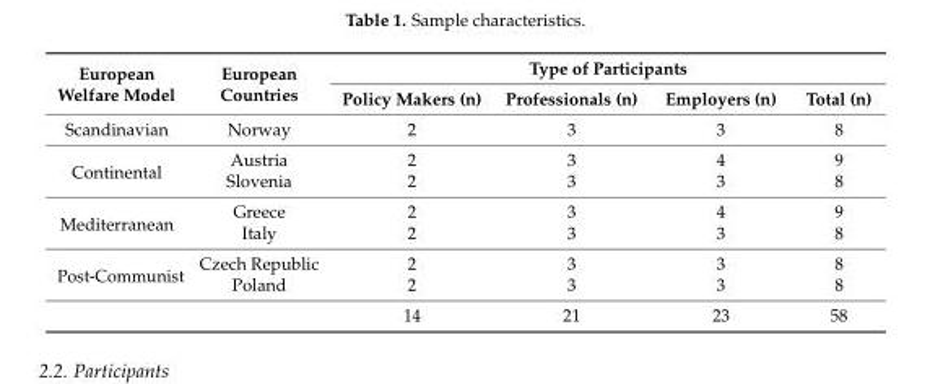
<table><thead><tr><td rowspan="2">European Welfare Model</td><td rowspan="2">European Countries</td><td colspan="4">Type of Participants</td></tr><tr><td>Policy Makers (n)</td><td>Professionals (n)</td><td>Employers (n)</td><td>Total (n)</td></tr></thead><tbody><tr><td>Scandinavian</td><td>Norway</td><td>2</td><td>3</td><td>3</td><td>8</td></tr><tr><td rowspan="2">Continental</td><td>Austria</td><td>2</td><td>3</td><td>4</td><td>9</td></tr><tr><td>Slovenia</td><td>2</td><td>3</td><td>3</td><td>8</td></tr><tr><td rowspan="2">Mediterranean</td><td>Greece</td><td>2</td><td>3</td><td>4</td><td>9</td></tr><tr><td>Italy</td><td>2</td><td>3</td><td>3</td><td>8</td></tr><tr><td rowspan="3">Post-Communist</td><td>Czech Republic</td><td>2</td><td>3</td><td>3</td><td>8</td></tr><tr><td>Poland</td><td>2</td><td>3</td><td>3</td><td>8</td></tr><tr><td></td><td>14</td><td>21</td><td>23</td><td>58</td></tr></tbody></table>